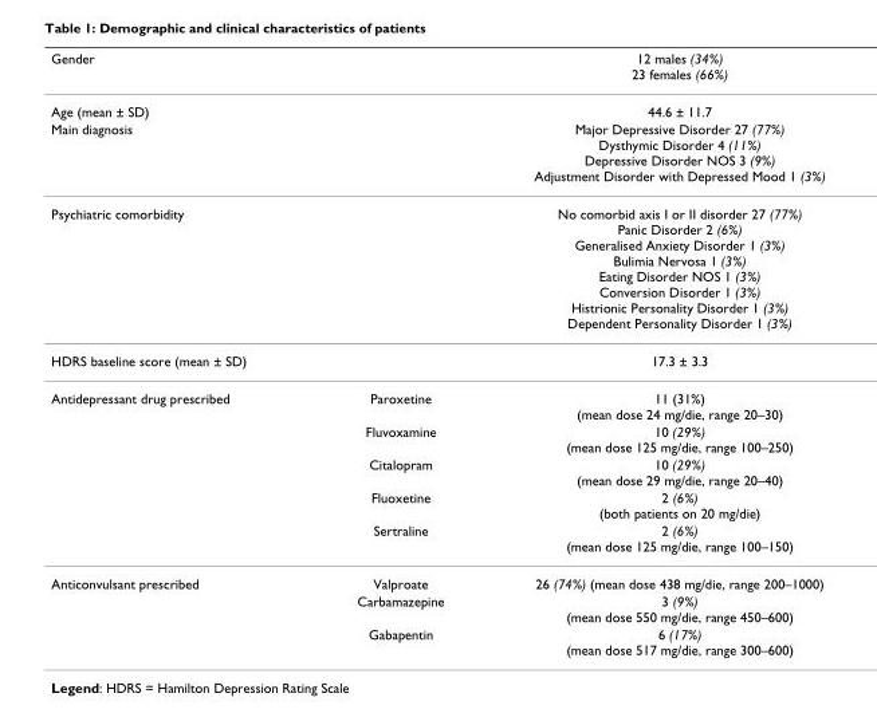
<table><thead><tr><td>Gender</td><td></td><td>12 males (34%) 23 females (66%)</td></tr></thead><tbody><tr><td>Age (mean ± SD)</td><td></td><td>44.6 ± 11.7</td></tr><tr><td>Main diagnosis</td><td></td><td>Major Depressive Disorder 27 (77%) Dysthymic Disorder 4 (11%) Depressive Disorder NOS 3 (9%) Adjustment Disorder with Depressed Mood 1 (3%)</td></tr><tr><td>Psychiatric comorbidity</td><td></td><td>No comorbid axis I or II disorder 27 (77%) Panic Disorder 2 (6%) Generalised Anxiety Disorder 1 (3%) Bulimia Nervosa 1 (3%) Eating Disorder NOS 1 (3%) Conversion Disorder 1 (3%) Histrionic Personality Disorder 1 (3%) Dependent Personality Disorder 1 (3%)</td></tr><tr><td>HDRS baseline score (mean ± SD)</td><td></td><td>17.3 ± 3.3</td></tr><tr><td rowspan="5">Antidepressant drug prescribed</td><td>Paroxetine</td><td>11 (31%) (mean dose 24 mg/die, range 20–30)</td></tr><tr><td>Fluvoxamine</td><td>10 (29%) (mean dose 125 mg/die, range 100–250)</td></tr><tr><td>Citalopram</td><td>10 (29%) (mean dose 29 mg/die, range 20–40)</td></tr><tr><td>Fluoxetine</td><td>2 (6%) (both patients on 20 mg/die)</td></tr><tr><td>Sertraline</td><td>2 (6%) (mean dose 125 mg/die, range 100–150)</td></tr><tr><td rowspan="3">Anticonvulsant prescribed</td><td>Valproate</td><td>26 (74%) (mean dose 438 mg/die, range 200–1000)</td></tr><tr><td>Carbamazepine</td><td>3 (9%) (mean dose 550 mg/die, range 450–600)</td></tr><tr><td>Gabapentin</td><td>6 (17%) (mean dose 517 mg/die, range 300–600)</td></tr></tbody></table>